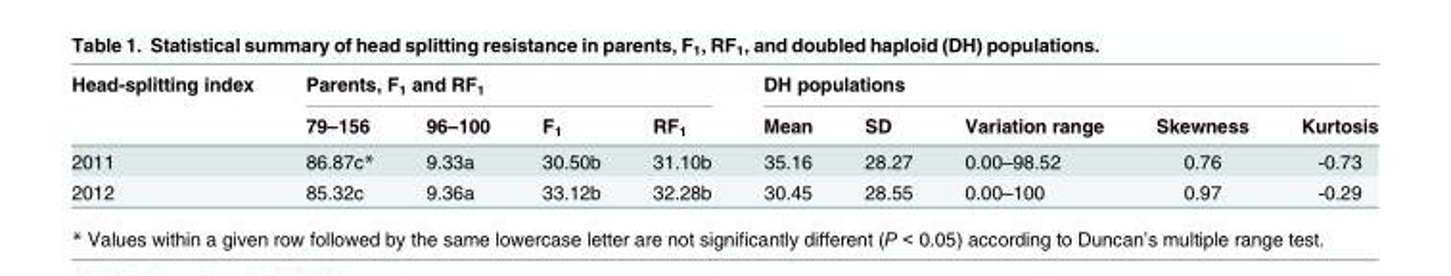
<table><thead><tr><td rowspan="2">Head-splitting index</td><td colspan="4">Parents, F<sub>1</sub> and RF<sub>1</sub></td><td colspan="5">DH populations</td></tr><tr><td>79–156</td><td>96–100</td><td>F<sub>1</sub></td><td>RF<sub>1</sub></td><td>Mean</td><td>SD</td><td>Variation range</td><td>Skewness</td><td>Kurtosis</td></tr></thead><tbody><tr><td>2011</td><td>86.87c*</td><td>9.33a</td><td>30.50b</td><td>31.10b</td><td>35.16</td><td>28.27</td><td>0.00–98.52</td><td>0.76</td><td>-0.73</td></tr><tr><td>2012</td><td>85.32c</td><td>9.36a</td><td>33.12b</td><td>32.28b</td><td>30.45</td><td>28.55</td><td>0.00–100</td><td>0.97</td><td>-0.29</td></tr></tbody></table>